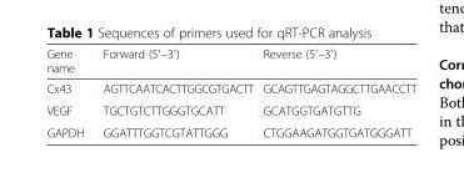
<table><thead><tr><td>Gene name</td><td>Forward (5′–3′)</td><td>Reverse (5′–3′)</td></tr></thead><tbody><tr><td>Cx43</td><td>AGTTCAATCACTTGGCGTGACTT</td><td>GCAGTTGAGTAGGCTTGAACCTT</td></tr><tr><td>VEGF</td><td>TGCTGTCTTGGGTGCATT</td><td>GCATGGTGATGTTG</td></tr><tr><td>GAPDH</td><td>GGATTTGGTCGTATTGGG</td><td>CTGGAAGATGGTGATGGGATT</td></tr></tbody></table>